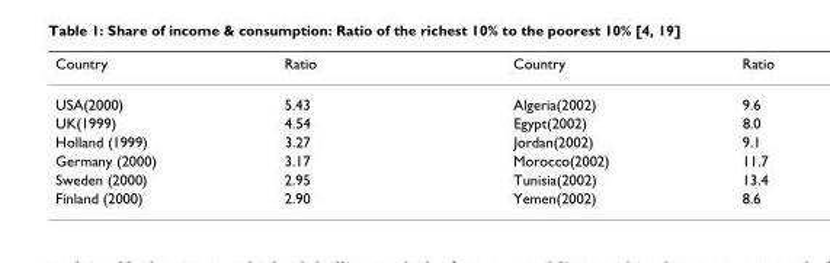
<table><thead><tr><td>Country</td><td>Ratio</td><td>Country</td><td>Ratio</td></tr></thead><tbody><tr><td>USA(2000)</td><td>5.43</td><td>Algeria(2002)</td><td>9.6</td></tr><tr><td>UK(1999)</td><td>4.54</td><td>Egypt(2002)</td><td>8.0</td></tr><tr><td>Holland (1999)</td><td>3.27</td><td>Jordan(2002)</td><td>9.1</td></tr><tr><td>Germany (2000)</td><td>3.17</td><td>Morocco(2002)</td><td>11.7</td></tr><tr><td>Sweden (2000)</td><td>2.95</td><td>Tunisia(2002)</td><td>13.4</td></tr><tr><td>Finland (2000)</td><td>2.90</td><td>Yemen(2002)</td><td>8.6</td></tr></tbody></table>